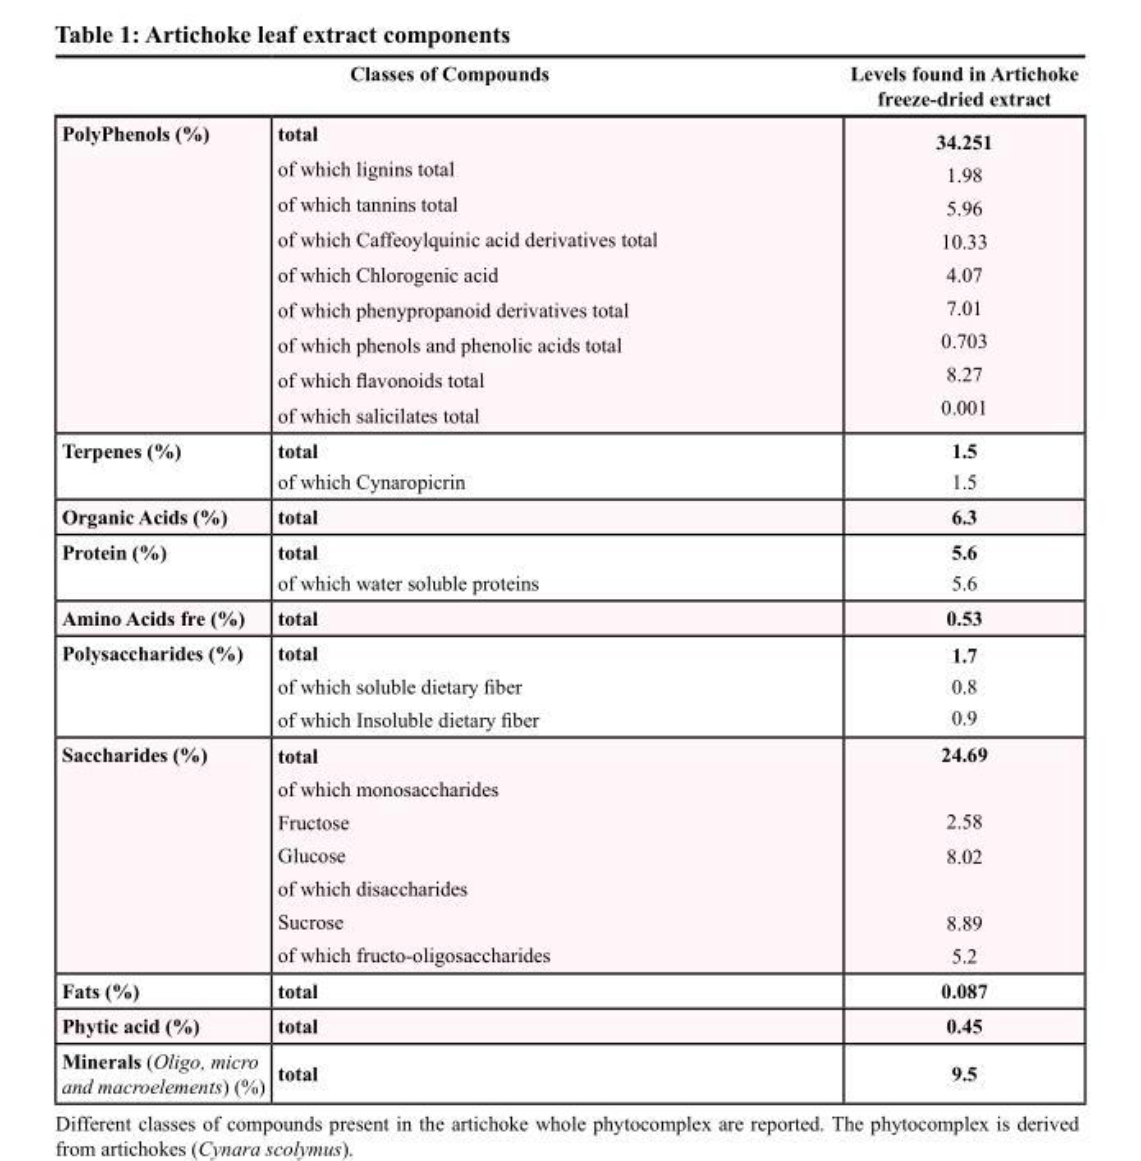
<table><thead><tr><td colspan="2">Classes of Compounds</td><td rowspan="2">Levels found in Artichoke freeze-dried extract 34.251 1.98 5.96 10.33 4.07 7.01 0.703 8.27 0.001</td></tr><tr><td>PolyPhenols (%)</td><td>total of which lignins total of which tannins total of which Caffeoylquinic acid derivatives total of which Chlorogenic acid of which phenypropanoid derivatives total of which phenols and phenolic acids total of which flavonoids total of which salicilates total</td></tr></thead><tbody><tr><td>Terpenes (%)</td><td>total of which Cynaropicrin</td><td>1.5 1.5</td></tr><tr><td>Organic Acids (%)</td><td>total</td><td>6.3</td></tr><tr><td>Protein (%)</td><td>total of which water soluble proteins</td><td>5.6 5.6</td></tr><tr><td>Amino Acids fre (%)</td><td>total</td><td>0.53</td></tr><tr><td>Polysaccharides (%)</td><td>total of which soluble dietary fiber of which Insoluble dietary fiber</td><td>1.7 0.8 0.9</td></tr><tr><td>Saccharides (%)</td><td>total of which monosaccharides Fructose Glucose of which disaccharides Sucrose of which fructo-oligosaccharides</td><td>24.69 2.58 8.02 8.89 5.2</td></tr><tr><td>Fats (%)</td><td>total</td><td>0.087</td></tr><tr><td>Phytic acid (%)</td><td>total</td><td>0.45</td></tr><tr><td>Minerals (Oligo, micro and macroelements) (%)</td><td>total</td><td>9.5</td></tr></tbody></table>